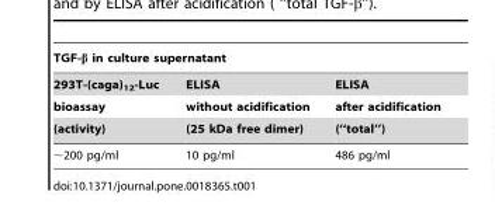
<table><thead><tr><td colspan="3">TGF-β in culture supernatant</td></tr><tr><td rowspan="3">293T-(caga)<sub>12</sub>-Luc bioassay (activity)</td><td rowspan="3">ELISA without acidification (25 kDa free dimer)</td><td rowspan="3">ELISA after acidification (‘‘total’’)</td></tr><tr></tr><tr></tr></thead><tbody><tr><td>∼200 pg/ml</td><td>10 pg/ml</td><td>486 pg/ml</td></tr></tbody></table>